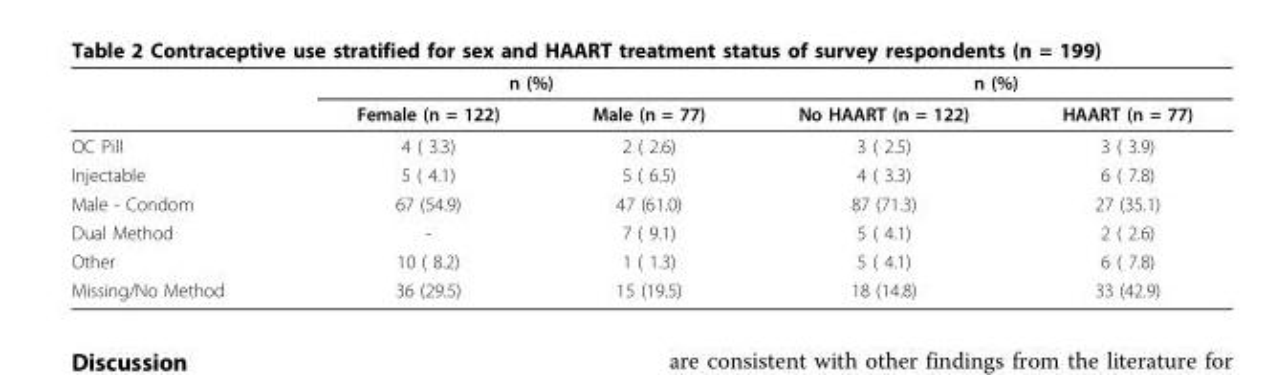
<table><thead><tr><td rowspan="2"></td><td colspan="2">n (%)</td><td colspan="2">n (%)</td></tr><tr><td>Female (n = 122)</td><td>Male (n = 77)</td><td>No HAART (n = 122)</td><td>HAART (n = 77)</td></tr></thead><tbody><tr><td>OC Pill</td><td>4 ( 3.3)</td><td>2 ( 2.6)</td><td>3 ( 2.5)</td><td>3 ( 3.9)</td></tr><tr><td>Injectable</td><td>5 ( 4.1)</td><td>5 ( 6.5)</td><td>4 ( 3.3)</td><td>6 ( 7.8)</td></tr><tr><td>Male - Condom</td><td>67 (54.9)</td><td>47 (61.0)</td><td>87 (71.3)</td><td>27 (35.1)</td></tr><tr><td>Dual Method</td><td>-</td><td>7 ( 9.1)</td><td>5 ( 4.1)</td><td>2 ( 2.6)</td></tr><tr><td>Other</td><td>10 ( 8.2)</td><td>1 ( 1.3)</td><td>5 ( 4.1)</td><td>6 ( 7.8)</td></tr><tr><td>Missing/No Method</td><td>36 (29.5)</td><td>15 (19.5)</td><td>18 (14.8)</td><td>33 (42.9)</td></tr></tbody></table>